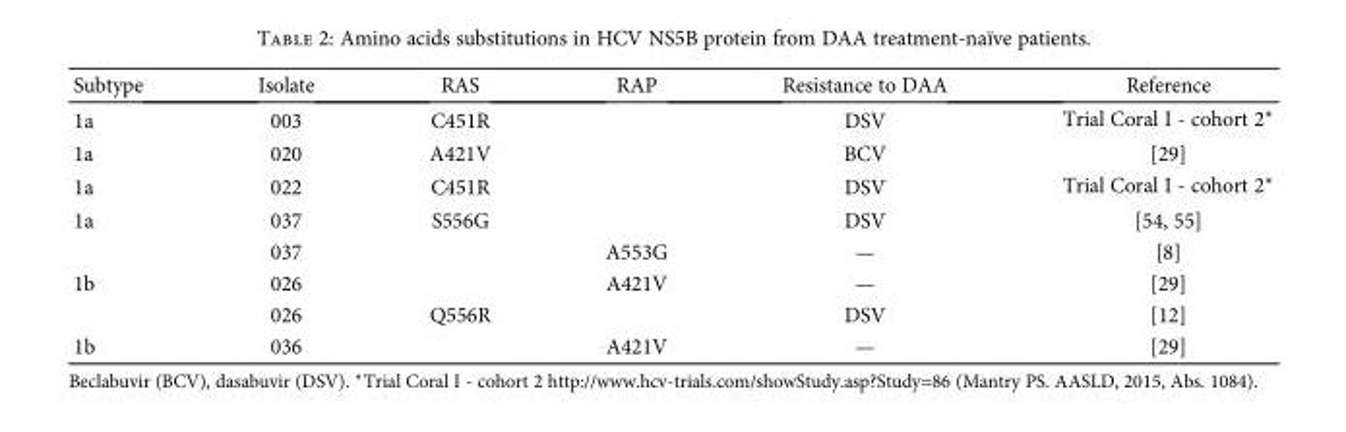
<table><thead><tr><td>Subtype</td><td>Isolate</td><td>RAS</td><td>RAP</td><td>Resistance to DAA</td><td>Reference</td></tr></thead><tbody><tr><td>1a</td><td>003</td><td>C451R</td><td></td><td>DSV</td><td>Trial Coral I - cohort 2∗</td></tr><tr><td>1a</td><td>020</td><td>A421V</td><td></td><td>BCV</td><td>[29]</td></tr><tr><td>1a</td><td>022</td><td>C451R</td><td></td><td>DSV</td><td>Trial Coral I - cohort 2∗</td></tr><tr><td rowspan="2">1a</td><td>037</td><td>S556G</td><td></td><td>DSV</td><td>[54, 55]</td></tr><tr><td>037</td><td></td><td>A553G</td><td>—</td><td>[8]</td></tr><tr><td rowspan="2">1b</td><td>026</td><td></td><td>A421V</td><td>—</td><td>[29]</td></tr><tr><td>026</td><td>Q556R</td><td></td><td>DSV</td><td>[12]</td></tr><tr><td>1b</td><td>036</td><td></td><td>A421V</td><td>—</td><td>[29]</td></tr></tbody></table>